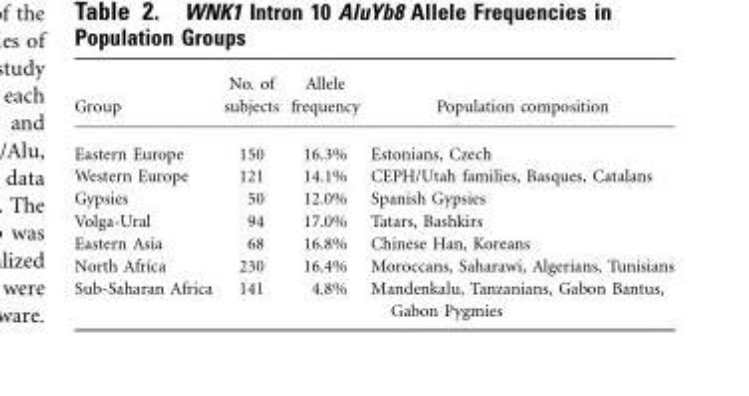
<table><thead><tr><td>Group</td><td>No. of subjects</td><td>Allele frequency</td><td>Population composition</td></tr></thead><tbody><tr><td>Eastern Europe</td><td>150</td><td>16.3%</td><td>Estonians, Czech</td></tr><tr><td>Western Europe</td><td>121</td><td>14.1%</td><td>CEPH/Utah families, Basques, Catalans</td></tr><tr><td>Gypsies</td><td>50</td><td>12.0%</td><td>Spanish Gypsies</td></tr><tr><td>Volga-Ural</td><td>94</td><td>17.0%</td><td>Tatars, Bashkirs</td></tr><tr><td>Eastern Asia</td><td>68</td><td>16.8%</td><td>Chinese Han, Koreans</td></tr><tr><td>North Africa</td><td>230</td><td>16.4%</td><td>Moroccans, Saharawi, Algerians, Tunisians</td></tr><tr><td>Sub-Saharan Africa</td><td>141</td><td>4.8%</td><td>Mandenkalu, Tanzanians, Gabon Bantus, Gabon Pygmies</td></tr></tbody></table>